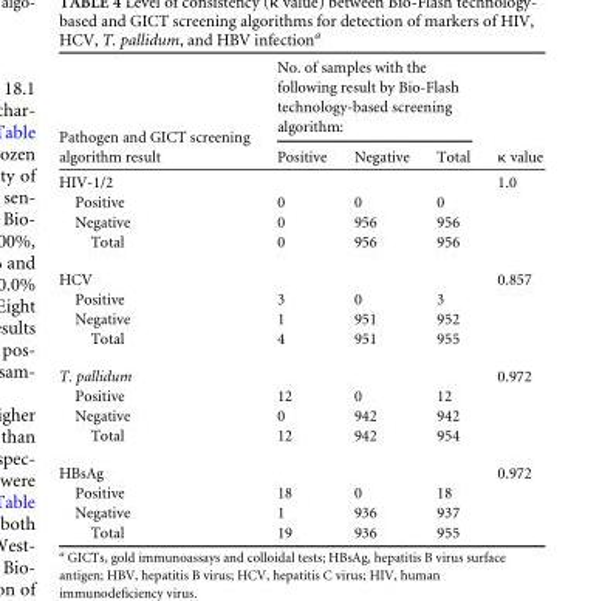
<table><thead><tr><td rowspan="2">Pathogen and GICT screening algorithm result</td><td colspan="3">No. of samples with the following result by Bio-Flash technology-based screening algorithm:</td><td rowspan="2">κ value</td></tr><tr><td>Positive</td><td>Negative</td><td>Total</td></tr></thead><tbody><tr><td>HIV-1/2</td><td></td><td></td><td></td><td>1.0</td></tr><tr><td>Positive</td><td>0</td><td>0</td><td>0</td><td></td></tr><tr><td>Negative</td><td>0</td><td>956</td><td>956</td><td></td></tr><tr><td>Total</td><td>0</td><td>956</td><td>956</td><td></td></tr><tr><td>HCV</td><td></td><td></td><td></td><td>0.857</td></tr><tr><td>Positive</td><td>3</td><td>0</td><td>3</td><td></td></tr><tr><td>Negative</td><td>1</td><td>951</td><td>952</td><td></td></tr><tr><td>Total</td><td>4</td><td>951</td><td>955</td><td></td></tr><tr><td>T. pallidum</td><td></td><td></td><td></td><td>0.972</td></tr><tr><td>Positive</td><td>12</td><td>0</td><td>12</td><td></td></tr><tr><td>Negative</td><td>0</td><td>942</td><td>942</td><td></td></tr><tr><td>Total</td><td>12</td><td>942</td><td>954</td><td></td></tr><tr><td>HBsAg</td><td></td><td></td><td></td><td>0.972</td></tr><tr><td>Positive</td><td>18</td><td>0</td><td>18</td><td></td></tr><tr><td>Negative</td><td>1</td><td>936</td><td>937</td><td></td></tr><tr><td>Total</td><td>19</td><td>936</td><td>955</td><td></td></tr></tbody></table>